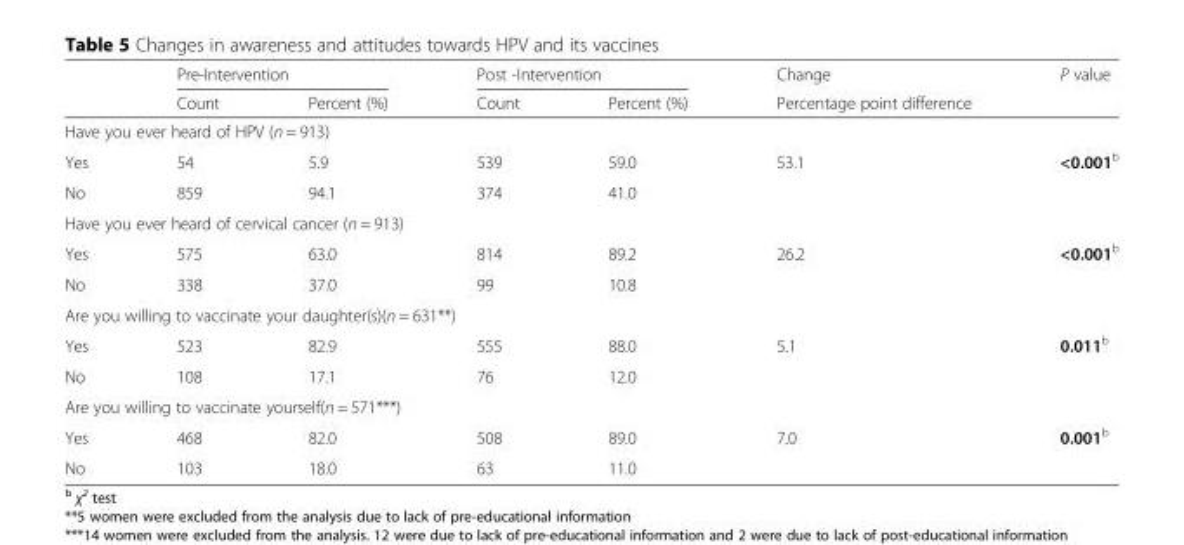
<table><thead><tr><td rowspan="2"></td><td colspan="2">Pre-Intervention</td><td colspan="2">Post -Intervention</td><td rowspan="2">Change Percentage point difference</td><td rowspan="2">P value</td></tr><tr><td>Count</td><td>Percent (%)</td><td>Count</td><td>Percent (%)</td></tr></thead><tbody><tr><td colspan="7">Have you ever heard of HPV (n = 913)</td></tr><tr><td>Yes</td><td>54</td><td>5.9</td><td>539</td><td>59.0</td><td>53.1</td><td>&lt;0.001<sup>b</sup></td></tr><tr><td>No</td><td>859</td><td>94.1</td><td>374</td><td>41.0</td><td></td><td></td></tr><tr><td colspan="7">Have you ever heard of cervical cancer (n = 913)</td></tr><tr><td>Yes</td><td>575</td><td>63.0</td><td>814</td><td>89.2</td><td>26.2</td><td>&lt;0.001<sup>b</sup></td></tr><tr><td>No</td><td>338</td><td>37.0</td><td>99</td><td>10.8</td><td></td><td></td></tr><tr><td colspan="7">Are you willing to vaccinate your daughter(s)(n = 631**)</td></tr><tr><td>Yes</td><td>523</td><td>82.9</td><td>555</td><td>88.0</td><td>5.1</td><td>0.011<sup>b</sup></td></tr><tr><td>No</td><td>108</td><td>17.1</td><td>76</td><td>12.0</td><td></td><td></td></tr><tr><td colspan="7">Are you willing to vaccinate yourself(n = 571***)</td></tr><tr><td>Yes</td><td>468</td><td>82.0</td><td>508</td><td>89.0</td><td>7.0</td><td>0.001<sup>b</sup></td></tr><tr><td>No</td><td>103</td><td>18.0</td><td>63</td><td>11.0</td><td></td><td></td></tr></tbody></table>